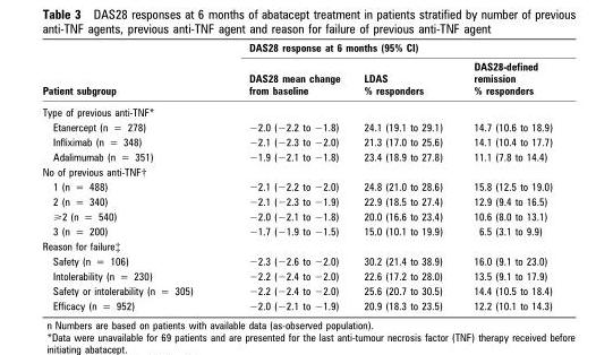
<table><thead><tr><td rowspan="2">Patient subgroup</td><td colspan="3">DAS28 response at 6 months (95% CI)</td></tr><tr><td>DAS28 mean change from baseline</td><td>LDAS % responders</td><td>DAS28-defined remission % responders</td></tr></thead><tbody><tr><td colspan="4">Type of previous anti-TNF*</td></tr><tr><td>Etanercept (n = 278)</td><td>−2.0 (−2.2 to −1.8)</td><td>24.1 (19.1 to 29.1)</td><td>14.7 (10.6 to 18.9)</td></tr><tr><td>Infliximab (n = 348)</td><td>−2.1 (−2.3 to −2.0)</td><td>21.3 (17.0 to 25.6)</td><td>14.1 (10.4 to 17.7)</td></tr><tr><td>Adalimumab (n = 351)</td><td>−1.9 (−2.1 to −1.8)</td><td>23.4 (18.9 to 27.8)</td><td>11.1 (7.8 to 14.4)</td></tr><tr><td colspan="4">No of previous anti-TNF†</td></tr><tr><td>1 (n = 488)</td><td>−2.1 (−2.2 to −2.0)</td><td>24.8 (21.0 to 28.6)</td><td>15.8 (12.5 to 19.0)</td></tr><tr><td>2 (n = 340)</td><td>−2.1 (−2.3 to −1.9)</td><td>22.9 (18.5 to 27.4)</td><td>12.9 (9.4 to 16.5)</td></tr><tr><td>&gt;2 (n = 540)</td><td>−2.0 (−2.1 to −1.8)</td><td>20.0 (16.6 to 23.4)</td><td>10.6 (8.0 to 13.1)</td></tr><tr><td>3 (n = 200)</td><td>−1.7 (−1.9 to −1.5)</td><td>15.0 (10.1 to 19.9)</td><td>6.5 (3.1 to 9.9)</td></tr><tr><td colspan="4">Reason for failure‡</td></tr><tr><td>Safety (n = 106)</td><td>−2.3 (−2.6 to −2.0)</td><td>30.2 (21.4 to 38.9)</td><td>16.0 (9.1 to 23.0)</td></tr><tr><td>Intolerability (n = 230)</td><td>−2.2 (−2.4 to −2.0)</td><td>22.6 (17.2 to 28.0)</td><td>13.5 (9.1 to 17.9)</td></tr><tr><td>Safety or intolerability (n = 305)</td><td>−2.2 (−2.4 to −2.0)</td><td>25.6 (20.7 to 30.5)</td><td>14.4 (10.5 to 18.4)</td></tr><tr><td>Efficacy (n = 952)</td><td>−2.0 (−2.1 to −1.9)</td><td>20.9 (18.3 to 23.5)</td><td>12.2 (10.1 to 14.3)</td></tr></tbody></table>